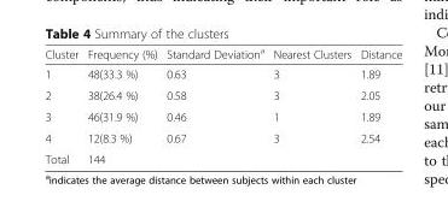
<table><thead><tr><td>Cluster</td><td>Frequency (%)</td><td>Standard Deviation<sup>a</sup></td><td>Nearest Clusters</td><td>Distance</td></tr></thead><tbody><tr><td>1</td><td>48(33.3 %)</td><td>0.63</td><td>3</td><td>1.89</td></tr><tr><td>2</td><td>38(26.4 %)</td><td>0.58</td><td>3</td><td>2.05</td></tr><tr><td>3</td><td>46(31.9 %)</td><td>0.46</td><td>1</td><td>1.89</td></tr><tr><td>4</td><td>12(8.3 %)</td><td>0.67</td><td>3</td><td>2.54</td></tr><tr><td>Total</td><td>144</td><td></td><td></td><td></td></tr></tbody></table>